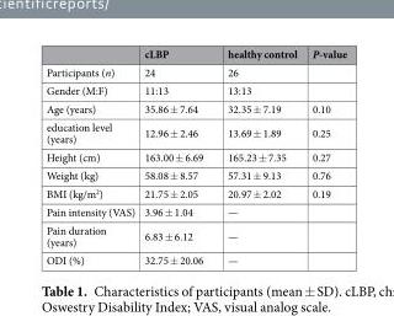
<table><thead><tr><td></td><td>cLBP</td><td>healthy control</td><td>P-value</td></tr></thead><tbody><tr><td>Participants (n)</td><td>24</td><td>26</td><td></td></tr><tr><td>Gender (M:F)</td><td>11:13</td><td>13:13</td><td></td></tr><tr><td>Age (years)</td><td>35.86 ± 7.64</td><td>32.35 ± 7.19</td><td>0.10</td></tr><tr><td>education level (years)</td><td>12.96 ± 2.46</td><td>13.69 ± 1.89</td><td>0.25</td></tr><tr><td>Height (cm)</td><td>163.00 ± 6.69</td><td>165.23 ± 7.35</td><td>0.27</td></tr><tr><td>Weight (kg)</td><td>58.08 ± 8.57</td><td>57.31 ± 9.13</td><td>0.76</td></tr><tr><td>BMI (kg/m<sup>2</sup>)</td><td>21.75 ± 2.05</td><td>20.97 ± 2.02</td><td>0.19</td></tr><tr><td>Pain intensity (VAS)</td><td>3.96 ± 1.04</td><td>—</td><td></td></tr><tr><td>Pain duration (years)</td><td>6.83 ± 6.12</td><td>—</td><td></td></tr><tr><td>ODI (%)</td><td>32.75 ± 20.06</td><td>—</td><td></td></tr></tbody></table>